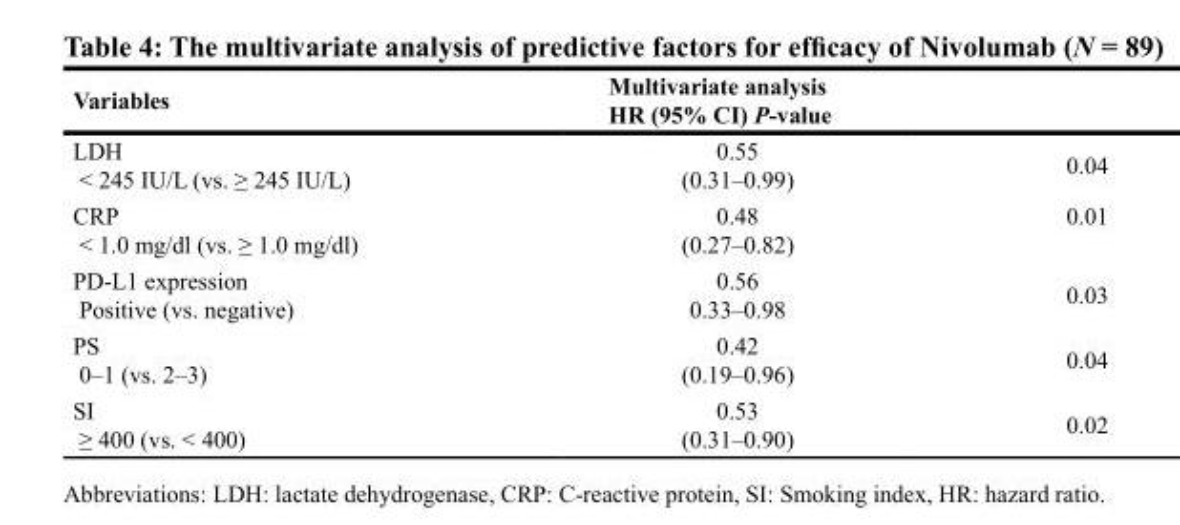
<table><thead><tr><td rowspan="2">Variables LDH &lt; 245 IU/L (vs. ≥ 245 IU/L)</td><td colspan="2">Multivariate analysis HR (95% CI) P-value</td></tr><tr><td>0.55 (0.31–0.99)</td><td>0.04</td></tr></thead><tbody><tr><td>CRP &lt; 1.0 mg/dl (vs. ≥ 1.0 mg/dl)</td><td>0.48 (0.27–0.82)</td><td>0.01</td></tr><tr><td>PD-L1 expression Positive (vs. negative)</td><td>0.56 0.33–0.98</td><td>0.03</td></tr><tr><td>PS 0–1 (vs. 2–3)</td><td>0.42 (0.19–0.96)</td><td>0.04</td></tr><tr><td>SI ≥ 400 (vs. &lt; 400)</td><td>0.53 (0.31–0.90)</td><td>0.02</td></tr></tbody></table>